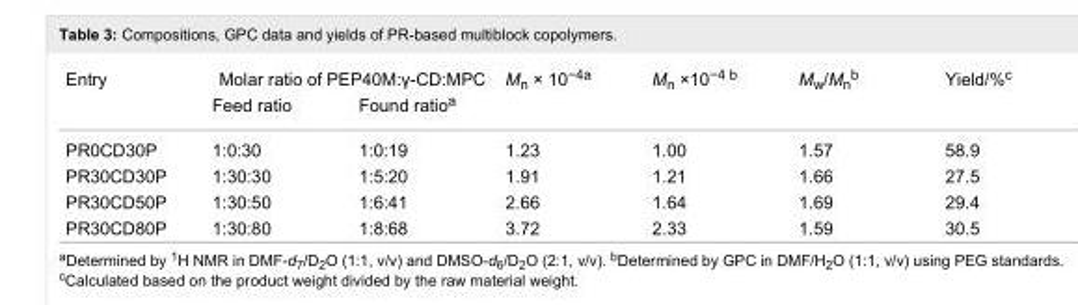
<table><tbody><tr><td rowspan="2">Entry</td><td colspan="2">Molar ratio of PEP40M:γ-CD:MPC</td><td rowspan="2">M<sub>n</sub> × 10<sup>−4a</sup></td><td rowspan="2">M<sub>n</sub> ×10<sup>−4 b</sup></td><td rowspan="2">M<sub>w</sub>/M<sub>n</sub><sup>b</sup></td><td rowspan="2">Yield/%<sup>c</sup></td></tr><tr><td>Feed ratio</td><td>Found ratio<sup>a</sup></td></tr><tr><td>PR0CD30P</td><td>1:0:30</td><td>1:0:19</td><td>1.23</td><td>1.00</td><td>1.57</td><td>58.9</td></tr><tr><td>PR30CD30P</td><td>1:30:30</td><td>1:5:20</td><td>1.91</td><td>1.21</td><td>1.66</td><td>27.5</td></tr><tr><td>PR30CD50P</td><td>1:30:50</td><td>1:6:41</td><td>2.66</td><td>1.64</td><td>1.69</td><td>29.4</td></tr><tr><td>PR30CD80P</td><td>1:30:80</td><td>1:8:68</td><td>3.72</td><td>2.33</td><td>1.59</td><td>30.5</td></tr></tbody></table>